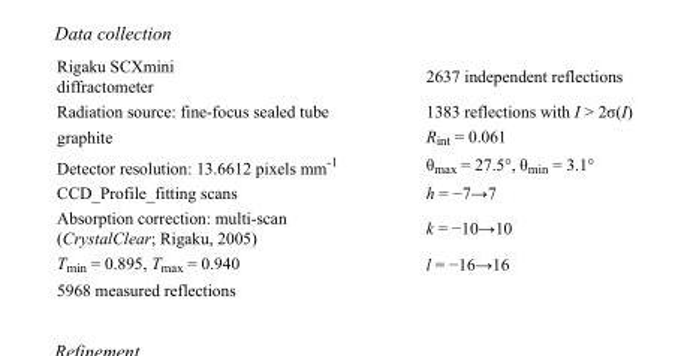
<table><tbody><tr><td>Rigaku SCXmini diffractometer</td><td>2637 independent reflections</td></tr><tr><td>Radiation source: fine-focus sealed tube</td><td>1383 reflections with I &gt; 2σ(I)</td></tr><tr><td>graphite</td><td>R<sub>int</sub> = 0.061</td></tr><tr><td>Detector resolution: 13.6612 pixels mm<sup>-1</sup></td><td>θ<sub>max</sub> = 27.5°, θ<sub>min</sub> = 3.1°</td></tr><tr><td>CCD_Profile_fitting scans</td><td>h = −7→7</td></tr><tr><td>Absorption correction: multi-scan (CrystalClear; Rigaku, 2005)</td><td>k = −10→10</td></tr><tr><td>T<sub>min</sub> = 0.895, T<sub>max</sub> = 0.940</td><td>l = −16→16</td></tr><tr><td>5968 measured reflections</td><td></td></tr></tbody></table>